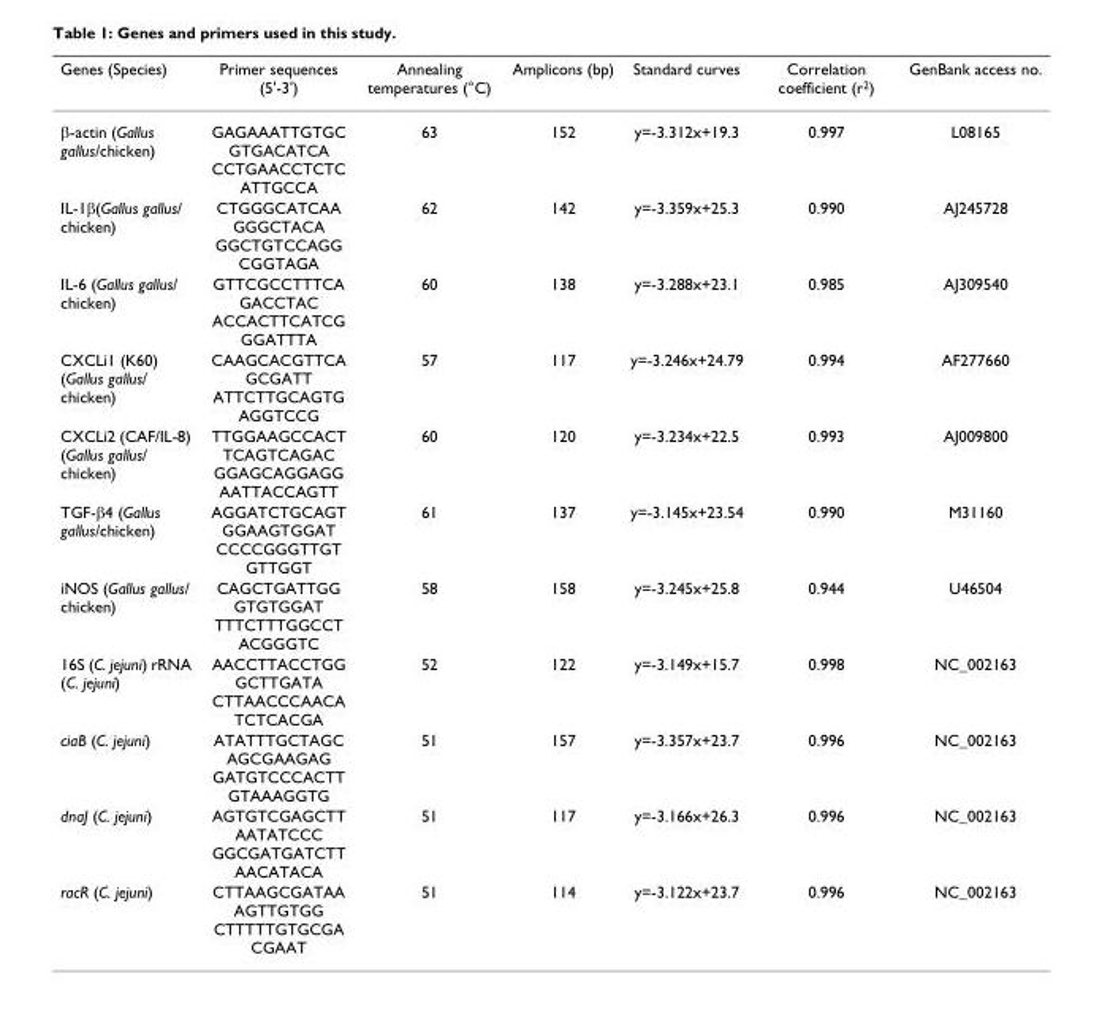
<table><thead><tr><td>Genes (Species)</td><td>Primer sequences (5&#x27;-3&#x27;)</td><td>Annealing temperatures (°C)</td><td>Amplicons (bp)</td><td>Standard curves</td><td>Correlation coefficient (r<sup>2</sup>)</td><td>GenBank access no.</td></tr></thead><tbody><tr><td>β-actin (Gallus gallus/chicken)</td><td>GAGAAATTGTGC GTGACATCA CCTGAACCTCTC ATTGCCA</td><td>63</td><td>152</td><td>y=-3.312x+19.3</td><td>0.997</td><td>L08165</td></tr><tr><td>IL-1β(Gallus gallus/ chicken)</td><td>CTGGGCATCAA GGGCTACA GGCTGTCCAGG CGGTAGA</td><td>62</td><td>142</td><td>y=-3.359x+25.3</td><td>0.990</td><td>AJ245728</td></tr><tr><td>IL-6 (Gallus gallus/ chicken)</td><td>GTTCGCCTTTCA GACCTAC ACCACTTCATCG GGATTTA</td><td>60</td><td>138</td><td>y=-3.288x+23.1</td><td>0.985</td><td>AJ309540</td></tr><tr><td>CXCLi1 (K60) (Gallus gallus/ chicken)</td><td>CAAGCACGTTCA GCGATT ATTCTTGCAGTG AGGTCCG</td><td>57</td><td>117</td><td>y=-3.246x+24.79</td><td>0.994</td><td>AF277660</td></tr><tr><td>CXCLi2 (CAF/IL-8) (Gallus gallus/ chicken)</td><td>TTGGAAGCCACT TCAGTCAGAC GGAGCAGGAGG AATTACCAGTT</td><td>60</td><td>120</td><td>y=-3.234x+22.5</td><td>0.993</td><td>AJ009800</td></tr><tr><td>TGF-β4 (Gallus gallus/chicken)</td><td>AGGATCTGCAGT GGAAGTGGAT CCCCGGGTTGT GTTGGT</td><td>61</td><td>137</td><td>y=-3.145x+23.54</td><td>0.990</td><td>M31160</td></tr><tr><td>iNOS (Gallus gallus/ chicken)</td><td>CAGCTGATTGG GTGTGGAT TTTCTTTGGCCT ACGGGTC</td><td>58</td><td>158</td><td>y=-3.245x+25.8</td><td>0.944</td><td>U46504</td></tr><tr><td>16S (C. jejuni) rRNA (C. jejuni)</td><td>AACCTTACCTGG GCTTGATA CTTAACCCAACA TCTCACGA</td><td>52</td><td>122</td><td>y=-3.149x+15.7</td><td>0.998</td><td>NC_002163</td></tr><tr><td>ciaB (C. jejuni)</td><td>ATATTTGCTAGC AGCGAAGAG GATGTCCCACTT GTAAAGGTG</td><td>51</td><td>157</td><td>y=-3.357x+23.7</td><td>0.996</td><td>NC_002163</td></tr><tr><td>dnaJ (C. jejuni)</td><td>AGTGTCGAGCTT AATATCCC GGCGATGATCTT AACATACA</td><td>51</td><td>117</td><td>y=-3.166x+26.3</td><td>0.996</td><td>NC_002163</td></tr><tr><td>racR (C. jejuni)</td><td>CTTAAGCGATAA AGTTGTGG CTTTTTGTGCGA CGAAT</td><td>51</td><td>114</td><td>y=-3.122x+23.7</td><td>0.996</td><td>NC_002163</td></tr></tbody></table>